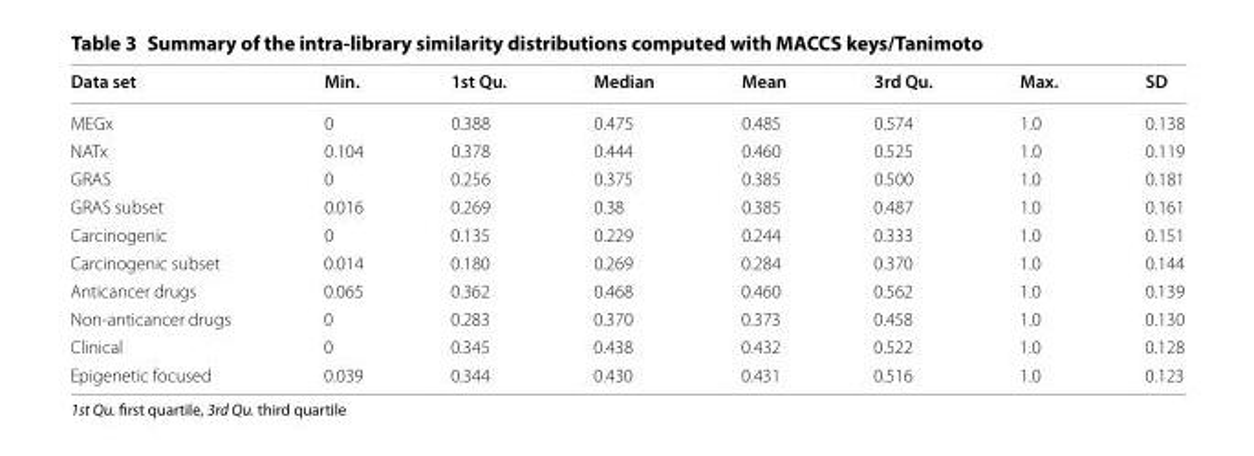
<table><thead><tr><td>Data set</td><td>Min.</td><td>1st Qu.</td><td>Median</td><td>Mean</td><td>3rd Qu.</td><td>Max.</td><td>SD</td></tr></thead><tbody><tr><td>MEGx</td><td>0</td><td>0.388</td><td>0.475</td><td>0.485</td><td>0.574</td><td>1.0</td><td>0.138</td></tr><tr><td>NATx</td><td>0.104</td><td>0.378</td><td>0.444</td><td>0.460</td><td>0.525</td><td>1.0</td><td>0.119</td></tr><tr><td>GRAS</td><td>0</td><td>0.256</td><td>0.375</td><td>0.385</td><td>0.500</td><td>1.0</td><td>0.181</td></tr><tr><td>GRAS subset</td><td>0.016</td><td>0.269</td><td>0.38</td><td>0.385</td><td>0.487</td><td>1.0</td><td>0.161</td></tr><tr><td>Carcinogenic</td><td>0</td><td>0.135</td><td>0.229</td><td>0.244</td><td>0.333</td><td>1.0</td><td>0.151</td></tr><tr><td>Carcinogenic subset</td><td>0.014</td><td>0.180</td><td>0.269</td><td>0.284</td><td>0.370</td><td>1.0</td><td>0.144</td></tr><tr><td>Anticancer drugs</td><td>0.065</td><td>0.362</td><td>0.468</td><td>0.460</td><td>0.562</td><td>1.0</td><td>0.139</td></tr><tr><td>Non‑anticancer drugs</td><td>0</td><td>0.283</td><td>0.370</td><td>0.373</td><td>0.458</td><td>1.0</td><td>0.130</td></tr><tr><td>Clinical</td><td>0</td><td>0.345</td><td>0.438</td><td>0.432</td><td>0.522</td><td>1.0</td><td>0.128</td></tr><tr><td>Epigenetic focused</td><td>0.039</td><td>0.344</td><td>0.430</td><td>0.431</td><td>0.516</td><td>1.0</td><td>0.123</td></tr></tbody></table>